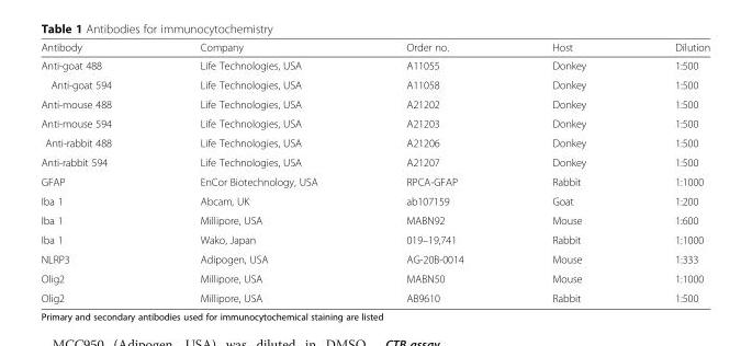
<table><thead><tr><td>Antibody</td><td>Company</td><td>Order no.</td><td>Host</td><td>Dilution</td></tr></thead><tbody><tr><td>Anti-goat 488</td><td>Life Technologies, USA</td><td>A11055</td><td>Donkey</td><td>1:500</td></tr><tr><td>Anti-goat 594</td><td>Life Technologies, USA</td><td>A11058</td><td>Donkey</td><td>1:500</td></tr><tr><td>Anti-mouse 488</td><td>Life Technologies, USA</td><td>A21202</td><td>Donkey</td><td>1:500</td></tr><tr><td>Anti-mouse 594</td><td>Life Technologies, USA</td><td>A21203</td><td>Donkey</td><td>1:500</td></tr><tr><td>Anti-rabbit 488</td><td>Life Technologies, USA</td><td>A21206</td><td>Donkey</td><td>1:500</td></tr><tr><td>Anti-rabbit 594</td><td>Life Technologies, USA</td><td>A21207</td><td>Donkey</td><td>1:500</td></tr><tr><td>GFAP</td><td>EnCor Biotechnology, USA</td><td>RPCA-GFAP</td><td>Rabbit</td><td>1:1000</td></tr><tr><td>Iba 1</td><td>Abcam, UK</td><td>ab107159</td><td>Goat</td><td>1:200</td></tr><tr><td>Iba 1</td><td>Millipore, USA</td><td>MABN92</td><td>Mouse</td><td>1:600</td></tr><tr><td>Iba 1</td><td>Wako, Japan</td><td>019–19,741</td><td>Rabbit</td><td>1:1000</td></tr><tr><td>NLRP3</td><td>Adipogen, USA</td><td>AG-20B-0014</td><td>Mouse</td><td>1:333</td></tr><tr><td>Olig2</td><td>Millipore, USA</td><td>MABN50</td><td>Mouse</td><td>1:1000</td></tr><tr><td>Olig2</td><td>Millipore, USA</td><td>AB9610</td><td>Rabbit</td><td>1:500</td></tr></tbody></table>